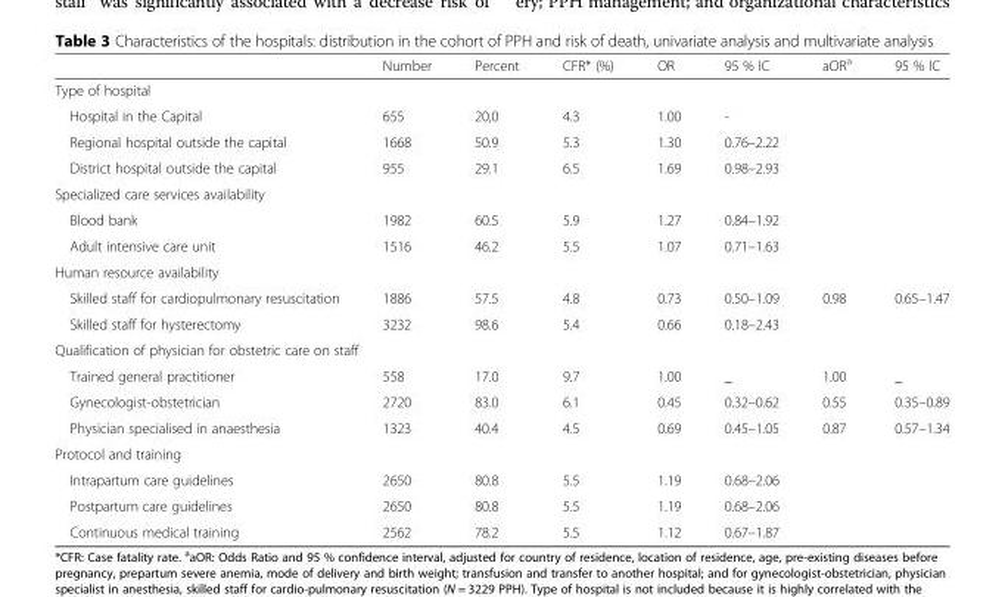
<table><thead><tr><td></td><td>Number</td><td>Percent</td><td>CFR* (%)</td><td>OR</td><td>95 % IC</td><td>aOR<sup>a</sup></td><td>95 % IC</td></tr></thead><tbody><tr><td colspan="8">Type of hospital</td></tr><tr><td>Hospital in the Capital</td><td>655</td><td>20,0</td><td>4.3</td><td>1.00</td><td>-</td><td></td><td></td></tr><tr><td>Regional hospital outside the capital</td><td>1668</td><td>50.9</td><td>5.3</td><td>1.30</td><td>0.76–2.22</td><td></td><td></td></tr><tr><td>District hospital outside the capital</td><td>955</td><td>29.1</td><td>6.5</td><td>1.69</td><td>0.98–2.93</td><td></td><td></td></tr><tr><td colspan="8">Specialized care services availability</td></tr><tr><td>Blood bank</td><td>1982</td><td>60.5</td><td>5.9</td><td>1.27</td><td>0.84–1.92</td><td></td><td></td></tr><tr><td>Adult intensive care unit</td><td>1516</td><td>46.2</td><td>5.5</td><td>1.07</td><td>0.71–1.63</td><td></td><td></td></tr><tr><td colspan="8">Human resource availability</td></tr><tr><td>Skilled staff for cardiopulmonary resuscitation</td><td>1886</td><td>57.5</td><td>4.8</td><td>0.73</td><td>0.50–1.09</td><td>0.98</td><td>0.65–1.47</td></tr><tr><td>Skilled staff for hysterectomy</td><td>3232</td><td>98.6</td><td>5.4</td><td>0.66</td><td>0.18–2.43</td><td></td><td></td></tr><tr><td colspan="8">Qualification of physician for obstetric care on staff</td></tr><tr><td>Trained general practitioner</td><td>558</td><td>17.0</td><td>9.7</td><td>1.00</td><td>_</td><td>1.00</td><td>_</td></tr><tr><td>Gynecologist-obstetrician</td><td>2720</td><td>83.0</td><td>6.1</td><td>0.45</td><td>0.32–0.62</td><td>0.55</td><td>0.35–0.89</td></tr><tr><td>Physician specialised in anaesthesia</td><td>1323</td><td>40.4</td><td>4.5</td><td>0.69</td><td>0.45–1.05</td><td>0.87</td><td>0.57–1.34</td></tr><tr><td colspan="8">Protocol and training</td></tr><tr><td>Intrapartum care guidelines</td><td>2650</td><td>80.8</td><td>5.5</td><td>1.19</td><td>0.68–2.06</td><td></td><td></td></tr><tr><td>Postpartum care guidelines</td><td>2650</td><td>80.8</td><td>5.5</td><td>1.19</td><td>0.68–2.06</td><td></td><td></td></tr><tr><td>Continuous medical training</td><td>2562</td><td>78.2</td><td>5.5</td><td>1.12</td><td>0.67–1.87</td><td></td><td></td></tr></tbody></table>